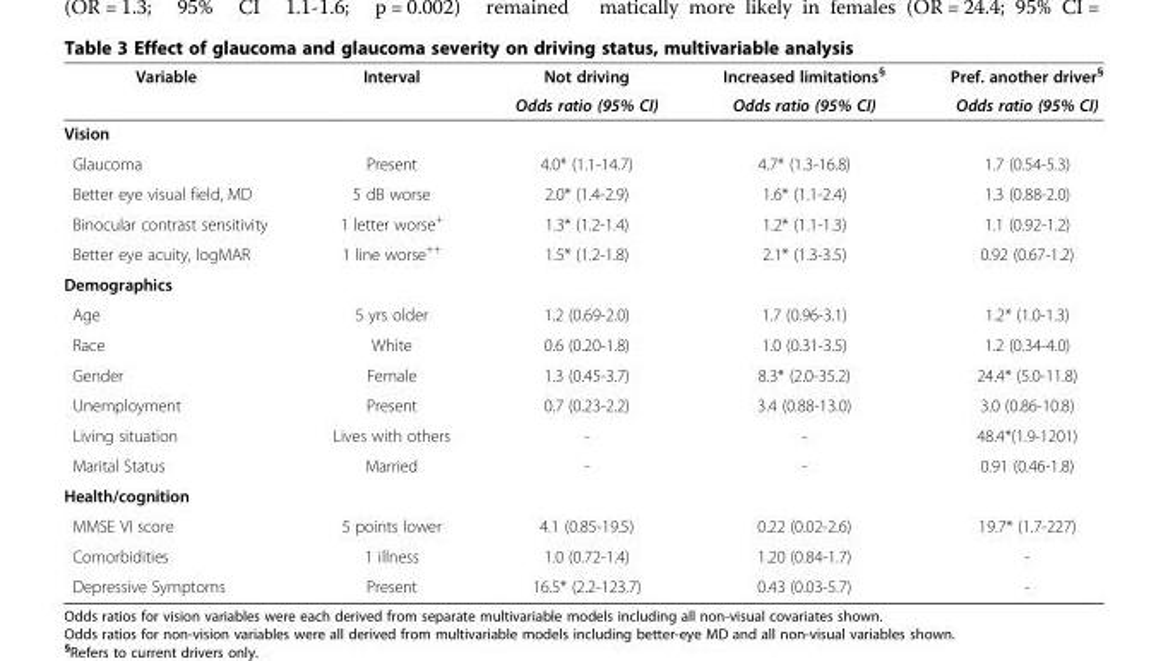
<table><thead><tr><td rowspan="2">Variable</td><td rowspan="2">Interval</td><td rowspan="2">Not driving Odds ratio (95% CI)</td><td rowspan="2">Increased limitations<sup>§</sup> Odds ratio (95% CI)</td><td rowspan="2">Pref. another driver<sup>§</sup> Odds ratio (95% CI)</td></tr><tr></tr></thead><tbody><tr><td colspan="5">Vision</td></tr><tr><td>Glaucoma</td><td>Present</td><td>4.0* (1.1-14.7)</td><td>4.7* (1.3-16.8)</td><td>1.7 (0.54-5.3)</td></tr><tr><td>Better eye visual field, MD</td><td>5 dB worse</td><td>2.0* (1.4-2.9)</td><td>1.6* (1.1-2.4)</td><td>1.3 (0.88-2.0)</td></tr><tr><td>Binocular contrast sensitivity</td><td>1 letter worse<sup>+</sup></td><td>1.3* (1.2-1.4)</td><td>1.2* (1.1-1.3)</td><td>1.1 (0.92-1.2)</td></tr><tr><td>Better eye acuity, logMAR</td><td>1 line worse<sup>++</sup></td><td>1.5* (1.2-1.8)</td><td>2.1* (1.3-3.5)</td><td>0.92 (0.67-1.2)</td></tr><tr><td colspan="5">Demographics</td></tr><tr><td>Age</td><td>5 yrs older</td><td>1.2 (0.69-2.0)</td><td>1.7 (0.96-3.1)</td><td>1.2* (1.0-1.3)</td></tr><tr><td>Race</td><td>White</td><td>0.6 (0.20-1.8)</td><td>1.0 (0.31-3.5)</td><td>1.2 (0.34-4.0)</td></tr><tr><td>Gender</td><td>Female</td><td>1.3 (0.45-3.7)</td><td>8.3* (2.0-35.2)</td><td>24.4* (5.0-11.8)</td></tr><tr><td>Unemployment</td><td>Present</td><td>0.7 (0.23-2.2)</td><td>3.4 (0.88-13.0)</td><td>3.0 (0.86-10.8)</td></tr><tr><td>Living situation</td><td>Lives with others</td><td>-</td><td>-</td><td>48.4*(1.9-1201)</td></tr><tr><td>Marital Status</td><td>Married</td><td>-</td><td>-</td><td>0.91 (0.46-1.8)</td></tr><tr><td colspan="5">Health/cognition</td></tr><tr><td>MMSE VI score</td><td>5 points lower</td><td>4.1 (0.85-19.5)</td><td>0.22 (0.02-2.6)</td><td>19.7* (1.7-227)</td></tr><tr><td>Comorbidities</td><td>1 illness</td><td>1.0 (0.72-1.4)</td><td>1.20 (0.84-1.7)</td><td>-</td></tr><tr><td>Depressive Symptoms</td><td>Present</td><td>16.5* (2.2-123.7)</td><td>0.43 (0.03-5.7)</td><td>-</td></tr></tbody></table>